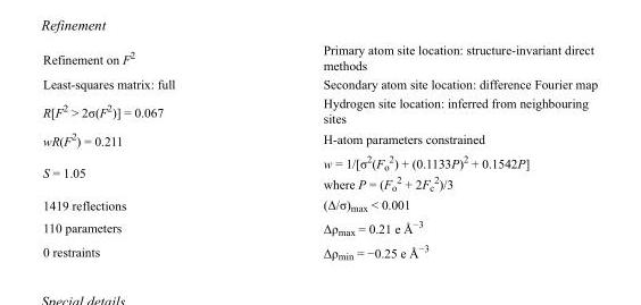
<table><tbody><tr><td>Refinement on F<sup>2</sup></td><td>Primary atom site location: structure-invariant direct methods</td></tr><tr><td>Least-squares matrix: full</td><td>Secondary atom site location: difference Fourier map</td></tr><tr><td>R[F<sup>2</sup> &gt; 2σ(F<sup>2</sup>)] = 0.067</td><td>Hydrogen site location: inferred from neighbouring sites</td></tr><tr><td>wR(F<sup>2</sup>) = 0.211</td><td>H-atom parameters constrained</td></tr><tr><td>S = 1.05</td><td>w = 1/[σ<sup>2</sup>(F<sub>o</sub> <sup>2</sup>) + (0.1133P)<sup>2</sup> + 0.1542P] where P = (F<sub>o</sub> <sup>2</sup> + 2F<sub>c</sub> <sup>2</sup>)/3</td></tr><tr><td>1419 reflections</td><td>(Δ/σ)<sub>max</sub> &lt; 0.001</td></tr><tr><td>110 parameters</td><td>Δρ<sub>max</sub> = 0.21 e Å<sup>−3</sup></td></tr><tr><td>0 restraints</td><td>Δρ<sub>min</sub> = −0.25 e Å<sup>−3</sup></td></tr></tbody></table>